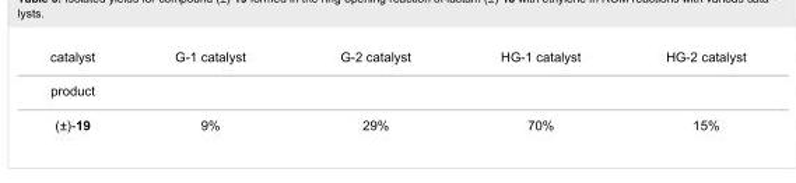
<table><tbody><tr><td>catalyst</td><td>G-1 catalyst</td><td>G-2 catalyst</td><td>HG-1 catalyst</td><td>HG-2 catalyst</td></tr><tr><td colspan="5">product</td></tr><tr><td>(±)-19</td><td>9%</td><td>29%</td><td>70%</td><td>15%</td></tr></tbody></table>